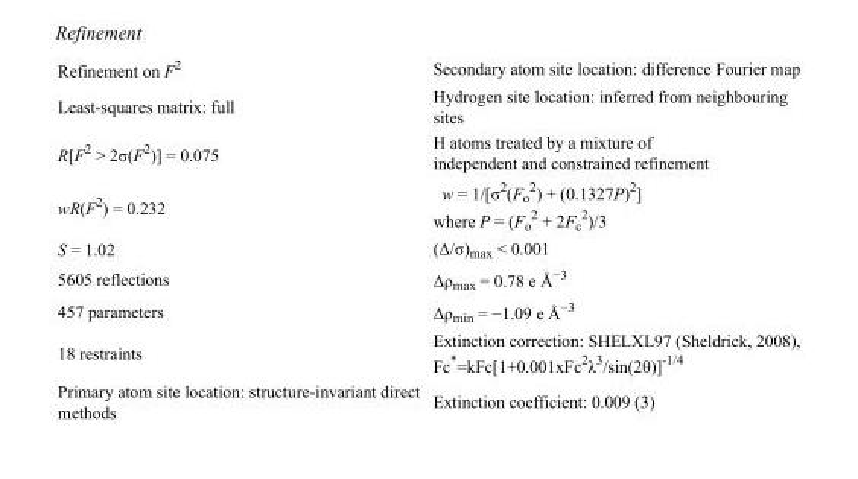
<table><tbody><tr><td>Refinement on F<sup>2</sup></td><td>Secondary atom site location: difference Fourier map</td></tr><tr><td>Least-squares matrix: full</td><td>Hydrogen site location: inferred from neighbouring sites</td></tr><tr><td>R[F<sup>2</sup> &gt; 2σ(F<sup>2</sup>)] = 0.075</td><td>H atoms treated by a mixture of independent and constrained refinement</td></tr><tr><td>wR(F<sup>2</sup>) = 0.232</td><td>w = 1/[σ<sup>2</sup>(F<sub>o</sub> <sup>2</sup>) + (0.1327P)<sup>2</sup>] where P = (F<sub>o</sub> <sup>2</sup> + 2F<sub>c</sub> <sup>2</sup>)/3</td></tr><tr><td>S = 1.02</td><td>(Δ/σ)<sub>max</sub> &lt; 0.001</td></tr><tr><td>5605 reflections</td><td>Δρ<sub>max</sub> = 0.78 e Å<sup>−3</sup></td></tr><tr><td>457 parameters</td><td>Δρ<sub>min</sub> = −1.09 e Å<sup>−3</sup></td></tr><tr><td>18 restraints</td><td>Extinction correction: SHELXL97 (Sheldrick, 2008), Fc*=kFc[1+0.001xFc<sup>2</sup>λ<sup>3</sup>/sin(2θ)]<sup>-1/4</sup></td></tr><tr><td>Primary atom site location: structure-invariant direct methods</td><td>Extinction coefficient: 0.009 (3)</td></tr></tbody></table>